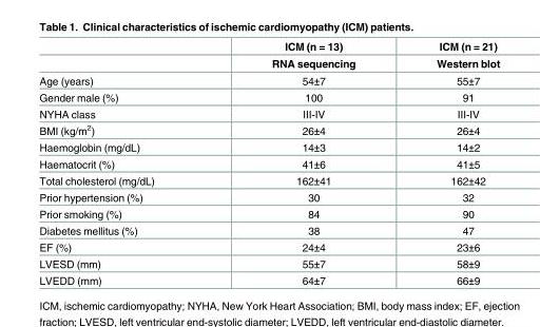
<table><thead><tr><td rowspan="2"></td><td rowspan="2">ICM (n = 13) RNA sequencing</td><td rowspan="2">ICM (n = 21) Western blot</td></tr><tr></tr></thead><tbody><tr><td>Age (years)</td><td>54±7</td><td>55±7</td></tr><tr><td>Gender male (%)</td><td>100</td><td>91</td></tr><tr><td>NYHA class</td><td>III-IV</td><td>III-IV</td></tr><tr><td>BMI (kg/m<sup>2</sup>)</td><td>26±4</td><td>26±4</td></tr><tr><td>Haemoglobin (mg/dL)</td><td>14±3</td><td>14±2</td></tr><tr><td>Haematocrit (%)</td><td>41±6</td><td>41±5</td></tr><tr><td>Total cholesterol (mg/dL)</td><td>162±41</td><td>162±42</td></tr><tr><td>Prior hypertension (%)</td><td>30</td><td>32</td></tr><tr><td>Prior smoking (%)</td><td>84</td><td>90</td></tr><tr><td>Diabetes mellitus (%)</td><td>38</td><td>47</td></tr><tr><td>EF (%)</td><td>24±4</td><td>23±6</td></tr><tr><td>LVESD (mm)</td><td>55±7</td><td>58±9</td></tr><tr><td>LVEDD (mm)</td><td>64±7</td><td>66±9</td></tr></tbody></table>